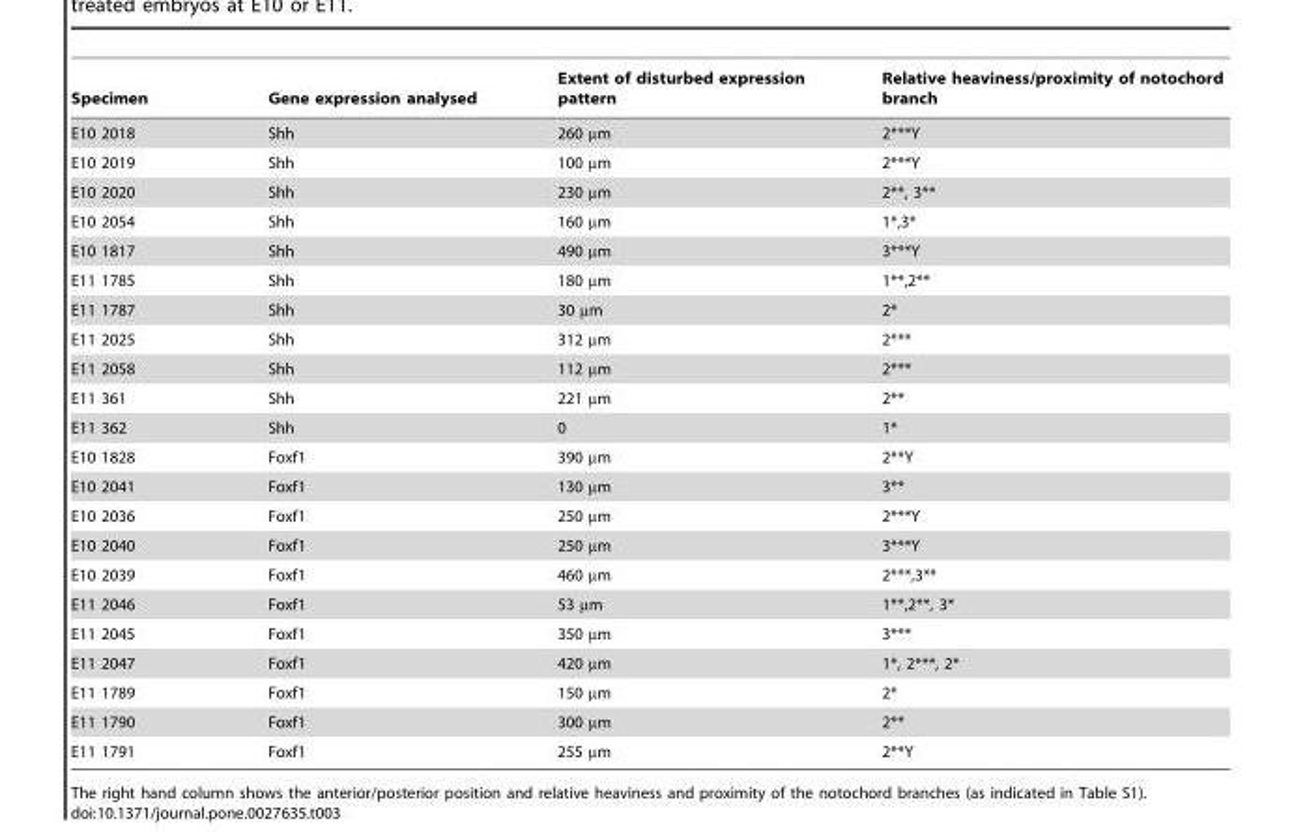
<table><thead><tr><td>Specimen</td><td>Gene expression analysed</td><td>Extent of disturbed expression pattern</td><td>Relative heaviness/proximity of notochord branch</td></tr></thead><tbody><tr><td>E10 2018</td><td>Shh</td><td>260 µm</td><td>2***Y</td></tr><tr><td>E10 2019</td><td>Shh</td><td>100 µm</td><td>2***Y</td></tr><tr><td>E10 2020</td><td>Shh</td><td>230 µm</td><td>2**, 3**</td></tr><tr><td>E10 2054</td><td>Shh</td><td>160 µm</td><td>1*,3*</td></tr><tr><td>E10 1817</td><td>Shh</td><td>490 µm</td><td>3***Y</td></tr><tr><td>E11 1785</td><td>Shh</td><td>180 µm</td><td>1**,2**</td></tr><tr><td>E11 1787</td><td>Shh</td><td>30 µm</td><td>2*</td></tr><tr><td>E11 2025</td><td>Shh</td><td>312 µm</td><td>2***</td></tr><tr><td>E11 2058</td><td>Shh</td><td>112 µm</td><td>2***</td></tr><tr><td>E11 361</td><td>Shh</td><td>221 µm</td><td>2**</td></tr><tr><td>E11 362</td><td>Shh</td><td>0</td><td>1*</td></tr><tr><td>E10 1828</td><td>Foxf1</td><td>390 µm</td><td>2**Y</td></tr><tr><td>E10 2041</td><td>Foxf1</td><td>130 µm</td><td>3**</td></tr><tr><td>E10 2036</td><td>Foxf1</td><td>250 µm</td><td>2***Y</td></tr><tr><td>E10 2040</td><td>Foxf1</td><td>250 µm</td><td>3***Y</td></tr><tr><td>E10 2039</td><td>Foxf1</td><td>460 µm</td><td>2***,3**</td></tr><tr><td>E11 2046</td><td>Foxf1</td><td>53 µm</td><td>1**,2**, 3*</td></tr><tr><td>E11 2045</td><td>Foxf1</td><td>350 µm</td><td>3***</td></tr><tr><td>E11 2047</td><td>Foxf1</td><td>420 µm</td><td>1*, 2***, 2*</td></tr><tr><td>E11 1789</td><td>Foxf1</td><td>150 µm</td><td>2*</td></tr><tr><td>E11 1790</td><td>Foxf1</td><td>300 µm</td><td>2**</td></tr><tr><td>E11 1791</td><td>Foxf1</td><td>255 µm</td><td>2**Y</td></tr></tbody></table>